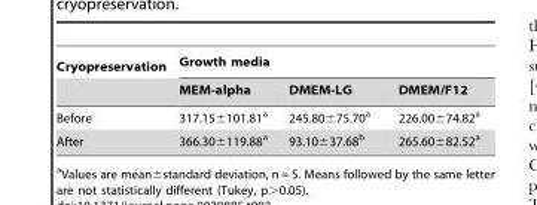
<table><thead><tr><td rowspan="2">Cryopreservation</td><td colspan="3">Growth media</td></tr><tr><td>MEM-alpha</td><td>DMEM-LG</td><td>DMEM/F12</td></tr></thead><tbody><tr><td>Before</td><td>317.15±101.81<sup>a</sup></td><td>245.80±75.70<sup>a</sup></td><td>226.00±74.82<sup>a</sup></td></tr><tr><td>After</td><td>366.30±119.88<sup>a</sup></td><td>93.10±37.68<sup>b</sup></td><td>265.60±82.52<sup>a</sup></td></tr></tbody></table>